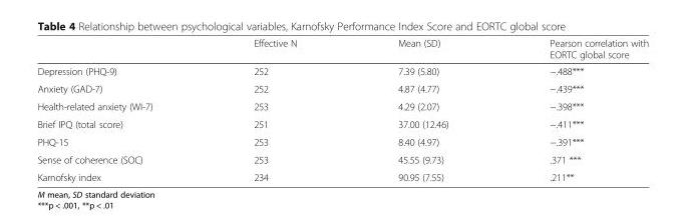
<table><thead><tr><td></td><td>Effective N</td><td>Mean (SD)</td><td>Pearson correlation with EORTC global score</td></tr></thead><tbody><tr><td>Depression (PHQ-9)</td><td>252</td><td>7.39 (5.80)</td><td>−.488***</td></tr><tr><td>Anxiety (GAD-7)</td><td>252</td><td>4.87 (4.77)</td><td>−.439***</td></tr><tr><td>Health-related anxiety (WI-7)</td><td>253</td><td>4.29 (2.07)</td><td>−.398***</td></tr><tr><td>Brief IPQ (total score)</td><td>251</td><td>37.00 (12.46)</td><td>−.411***</td></tr><tr><td>PHQ-15</td><td>253</td><td>8.40 (4.97)</td><td>−.391***</td></tr><tr><td>Sense of coherence (SOC)</td><td>253</td><td>45.55 (9.73)</td><td>.371 ***</td></tr><tr><td>Karnofsky index</td><td>234</td><td>90.95 (7.55)</td><td>.211**</td></tr></tbody></table>